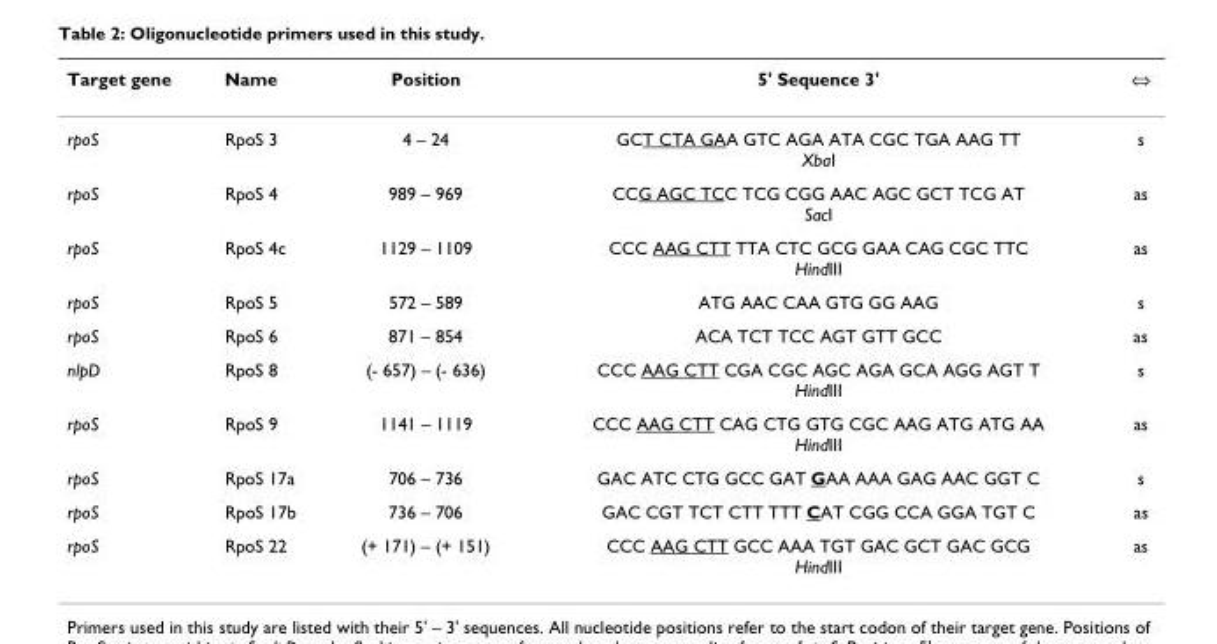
<table><thead><tr><td>Target gene</td><td>Name</td><td>Position</td><td>5&#x27; Sequence 3&#x27;</td><td>⇔</td></tr></thead><tbody><tr><td>rpoS</td><td>RpoS 3</td><td>4 – 24</td><td>GCT CTA GAA GTC AGA ATA CGC TGA AAG TT XbaI</td><td>s</td></tr><tr><td>rpoS</td><td>RpoS 4</td><td>989 – 969</td><td>CCG AGC TCC TCG CGG AAC AGC GCT TCG AT SacI</td><td>as</td></tr><tr><td>rpoS</td><td>RpoS 4c</td><td>1129 – 1109</td><td>CCC AAG CTT TTA CTC GCG GAA CAG CGC TTC HindIII</td><td>as</td></tr><tr><td>rpoS</td><td>RpoS 5</td><td>572 – 589</td><td>ATG AAC CAA GTG GG AAG</td><td>s</td></tr><tr><td>rpoS</td><td>RpoS 6</td><td>871 – 854</td><td>ACA TCT TCC AGT GTT GCC</td><td>as</td></tr><tr><td>nlpD</td><td>RpoS 8</td><td>(- 657) – (- 636)</td><td>CCC AAG CTT CGA CGC AGC AGA GCA AGG AGT T HindIII</td><td>s</td></tr><tr><td>rpoS</td><td>RpoS 9</td><td>1141 – 1119</td><td>CCC AAG CTT CAG CTG GTG CGC AAG ATG ATG AA HindIII</td><td>as</td></tr><tr><td>rpoS</td><td>RpoS 17a</td><td>706 – 736</td><td>GAC ATC CTG GCC GAT GAA AAA GAG AAC GGT C</td><td>s</td></tr><tr><td>rpoS</td><td>RpoS 17b</td><td>736 – 706</td><td>GAC CGT TCT CTT TTT CAT CGG CCA GGA TGT C</td><td>as</td></tr><tr><td>rpoS</td><td>RpoS 22</td><td>(+ 171) – (+ 151)</td><td>CCC AAG CTT GCC AAA TGT GAC GCT GAC GCG HindIII</td><td>as</td></tr></tbody></table>